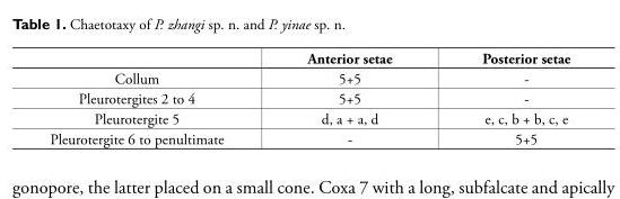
<table><thead><tr><td></td><td>Anterior setae</td><td>Posterior setae</td></tr></thead><tbody><tr><td>Collum</td><td>5+5</td><td>-</td></tr><tr><td>Pleurotergites 2 to 4</td><td>5+5</td><td>-</td></tr><tr><td>Pleurotergite 5</td><td>d, a + a, d</td><td>e, c, b + b, c, e</td></tr><tr><td>Pleurotergite 6 to penultimate</td><td>-</td><td>5+5</td></tr></tbody></table>